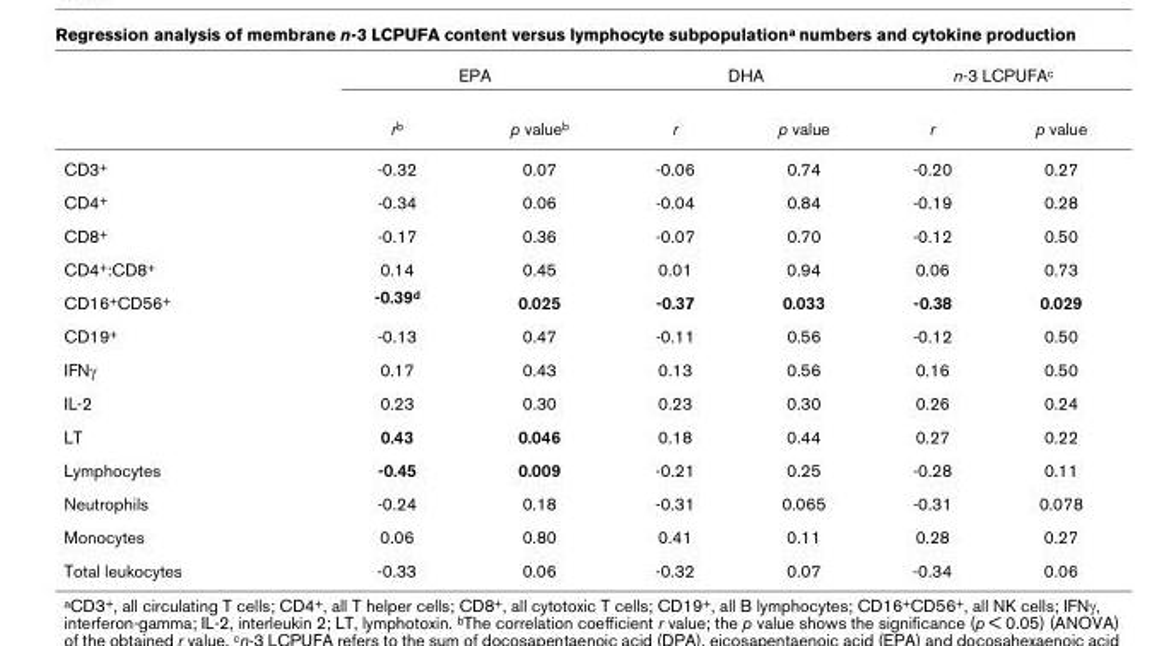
<table><thead><tr><td rowspan="2"></td><td colspan="2">EPA</td><td colspan="2">DHA</td><td colspan="2">n-3 LCPUFA<sup>c</sup></td></tr><tr><td>r<sup>b</sup></td><td>p value<sup>b</sup></td><td>r</td><td>p value</td><td>r</td><td>p value</td></tr></thead><tbody><tr><td>CD3<sup>+</sup></td><td>-0.32</td><td>0.07</td><td>-0.06</td><td>0.74</td><td>-0.20</td><td>0.27</td></tr><tr><td>CD4<sup>+</sup></td><td>-0.34</td><td>0.06</td><td>-0.04</td><td>0.84</td><td>-0.19</td><td>0.28</td></tr><tr><td>CD8<sup>+</sup></td><td>-0.17</td><td>0.36</td><td>-0.07</td><td>0.70</td><td>-0.12</td><td>0.50</td></tr><tr><td>CD4<sup>+</sup>:CD8<sup>+</sup></td><td>0.14</td><td>0.45</td><td>0.01</td><td>0.94</td><td>0.06</td><td>0.73</td></tr><tr><td>CD16<sup>+</sup>CD56<sup>+</sup></td><td>-0.39<sup>d</sup></td><td>0.025</td><td>-0.37</td><td>0.033</td><td>-0.38</td><td>0.029</td></tr><tr><td>CD19<sup>+</sup></td><td>-0.13</td><td>0.47</td><td>-0.11</td><td>0.56</td><td>-0.12</td><td>0.50</td></tr><tr><td>IFNγ</td><td>0.17</td><td>0.43</td><td>0.13</td><td>0.56</td><td>0.16</td><td>0.50</td></tr><tr><td>IL-2</td><td>0.23</td><td>0.30</td><td>0.23</td><td>0.30</td><td>0.26</td><td>0.24</td></tr><tr><td>LT</td><td>0.43</td><td>0.046</td><td>0.18</td><td>0.44</td><td>0.27</td><td>0.22</td></tr><tr><td>Lymphocytes</td><td>-0.45</td><td>0.009</td><td>-0.21</td><td>0.25</td><td>-0.28</td><td>0.11</td></tr><tr><td>Neutrophils</td><td>-0.24</td><td>0.18</td><td>-0.31</td><td>0.065</td><td>-0.31</td><td>0.078</td></tr><tr><td>Monocytes</td><td>0.06</td><td>0.80</td><td>0.41</td><td>0.11</td><td>0.28</td><td>0.27</td></tr><tr><td>Total leukocytes</td><td>-0.33</td><td>0.06</td><td>-0.32</td><td>0.07</td><td>-0.34</td><td>0.06</td></tr></tbody></table>